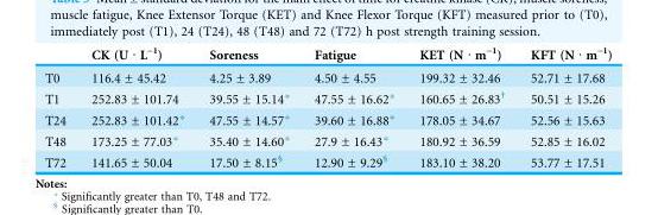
<table><thead><tr><td></td><td>CK (U · L<sup>-1</sup>)</td><td>Soreness</td><td>Fatigue</td><td>KET (N · m<sup>-1</sup>)</td><td>KFT (N · m<sup>-1</sup>)</td></tr></thead><tbody><tr><td>T0</td><td>116.4 ± 45.42</td><td>4.25 ± 3.89</td><td>4.50 ± 4.55</td><td>199.32 ± 32.46</td><td>52.71 ± 17.68</td></tr><tr><td>T1</td><td>252.83 ± 101.74</td><td>39.55 ± 15.14*</td><td>47.55 ± 16.62*</td><td>160.65 ± 26.83<sup>†</sup></td><td>50.51 ± 15.26</td></tr><tr><td>T24</td><td>252.83 ± 101.42*</td><td>47.55 ± 14.57*</td><td>39.60 ± 16.88*</td><td>178.05 ± 34.67</td><td>52.56 ± 15.63</td></tr><tr><td>T48</td><td>173.25 ± 77.03*</td><td>35.40 ± 14.60*</td><td>27.9 ± 16.43*</td><td>180.92 ± 36.59</td><td>52.85 ± 16.02</td></tr><tr><td>T72</td><td>141.65 ± 50.04</td><td>17.50 ± 8.15§</td><td>12.90 ± 9.29§</td><td>183.10 ± 38.20</td><td>53.77 ± 17.51</td></tr></tbody></table>